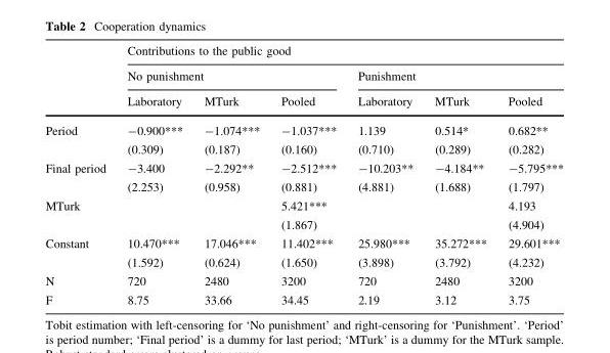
<table><thead><tr><td rowspan="3"></td><td colspan="6">Contributions to the public good</td></tr><tr><td colspan="3">No punishment</td><td colspan="3">Punishment</td></tr><tr><td>Laboratory</td><td>MTurk</td><td>Pooled</td><td>Laboratory</td><td>MTurk</td><td>Pooled</td></tr></thead><tbody><tr><td rowspan="2">Period</td><td>-0.900***</td><td>-1.074***</td><td>-1.037***</td><td>1.139</td><td>0.514*</td><td>0.682**</td></tr><tr><td>(0.309)</td><td>(0.187)</td><td>(0.160)</td><td>(0.710)</td><td>(0.289)</td><td>(0.282)</td></tr><tr><td rowspan="2">Final period</td><td>-3.400</td><td>-2.292**</td><td>-2.512***</td><td>-10.203**</td><td>-4.184**</td><td>-5.795***</td></tr><tr><td>(2.253)</td><td>(0.958)</td><td>(0.881)</td><td>(4.881)</td><td>(1.688)</td><td>(1.797)</td></tr><tr><td rowspan="2">MTurk</td><td></td><td></td><td>5.421***</td><td></td><td></td><td>4.193</td></tr><tr><td></td><td></td><td>(1.867)</td><td></td><td></td><td>(4.904)</td></tr><tr><td rowspan="2">Constant</td><td>10.470***</td><td>17.046***</td><td>11.402***</td><td>25.980***</td><td>35.272***</td><td>29.601***</td></tr><tr><td>(1.592)</td><td>(0.624)</td><td>(1.650)</td><td>(3.898)</td><td>(3.792)</td><td>(4.232)</td></tr><tr><td>N</td><td>720</td><td>2480</td><td>3200</td><td>720</td><td>2480</td><td>3200</td></tr><tr><td>F</td><td>8.75</td><td>33.66</td><td>34.45</td><td>2.19</td><td>3.12</td><td>3.75</td></tr></tbody></table>